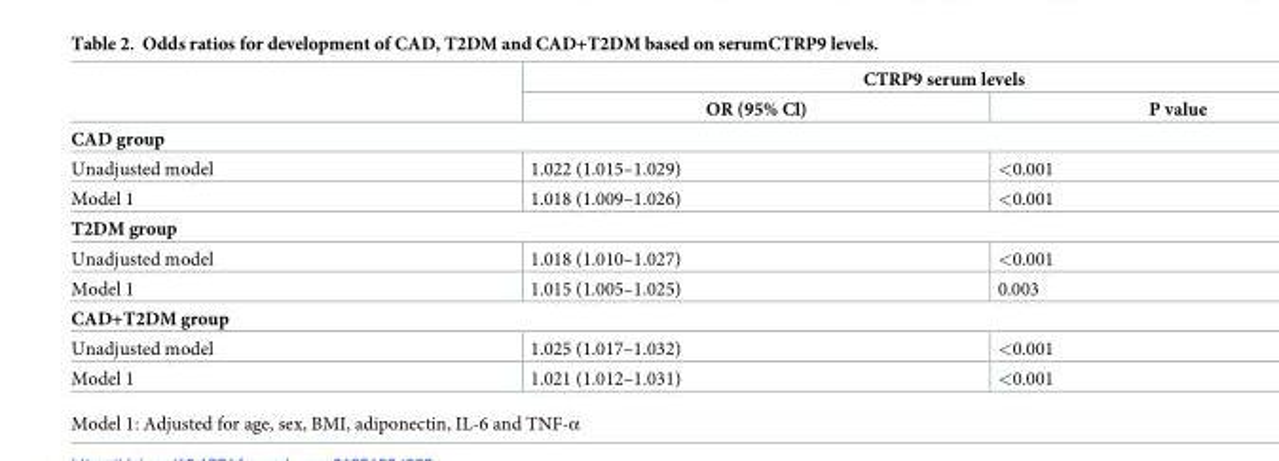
<table><thead><tr><td rowspan="2"></td><td colspan="2">CTRP9 serum levels</td></tr><tr><td>OR (95% Cl)</td><td>P value</td></tr></thead><tbody><tr><td colspan="3">CAD group</td></tr><tr><td>Unadjusted model</td><td>1.022 (1.015–1.029)</td><td>&lt;0.001</td></tr><tr><td>Model 1</td><td>1.018 (1.009–1.026)</td><td>&lt;0.001</td></tr><tr><td colspan="3">T2DM group</td></tr><tr><td>Unadjusted model</td><td>1.018 (1.010–1.027)</td><td>&lt;0.001</td></tr><tr><td>Model 1</td><td>1.015 (1.005–1.025)</td><td>0.003</td></tr><tr><td colspan="3">CAD+T2DM group</td></tr><tr><td>Unadjusted model</td><td>1.025 (1.017–1.032)</td><td>&lt;0.001</td></tr><tr><td>Model 1</td><td>1.021 (1.012–1.031)</td><td>&lt;0.001</td></tr></tbody></table>